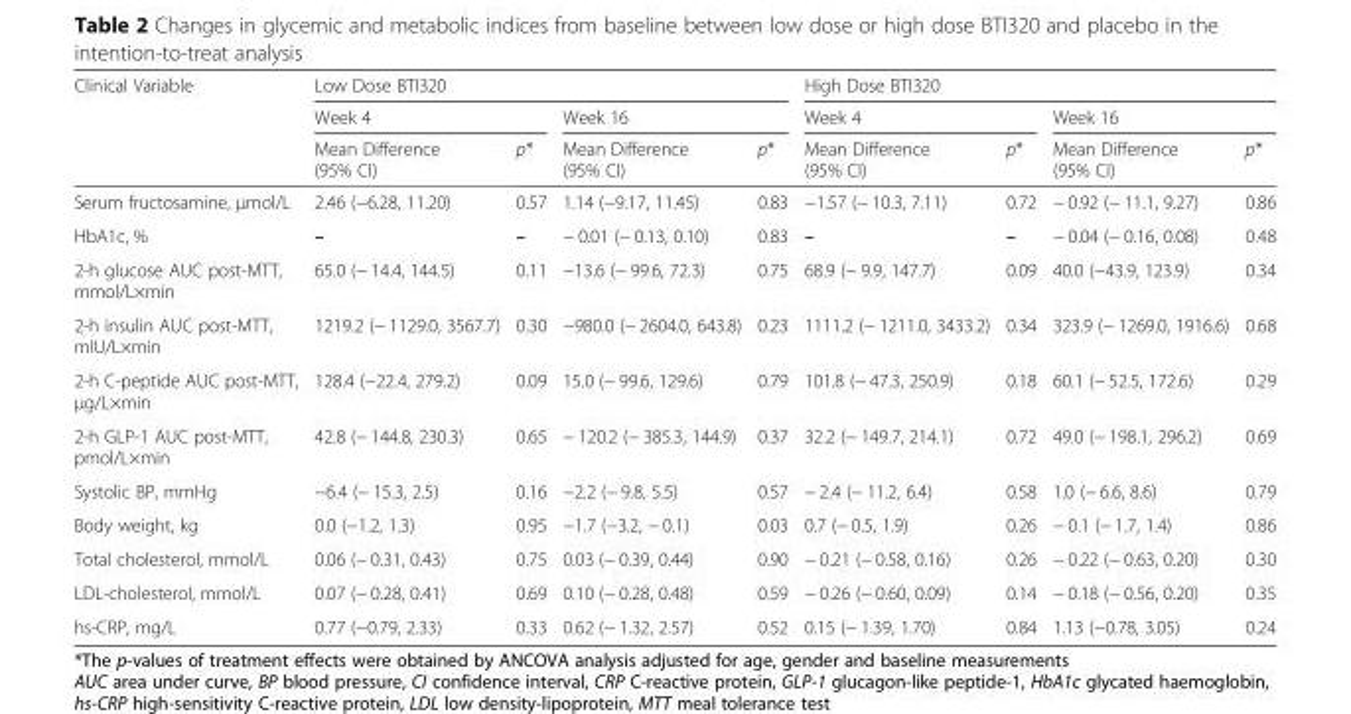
<table><thead><tr><td rowspan="3">Clinical Variable</td><td colspan="4">Low Dose BTI320</td><td colspan="4">High Dose BTI320</td></tr><tr><td colspan="2">Week 4</td><td colspan="2">Week 16</td><td colspan="2">Week 4</td><td colspan="2">Week 16</td></tr><tr><td>Mean Difference (95% CI)</td><td>p*</td><td>Mean Difference (95% CI)</td><td>p*</td><td>Mean Difference (95% CI)</td><td>p*</td><td>Mean Difference (95% CI)</td><td>p*</td></tr></thead><tbody><tr><td>Serum fructosamine, μmol/L</td><td>2.46 (−6.28, 11.20)</td><td>0.57</td><td>1.14 (−9.17, 11.45)</td><td>0.83</td><td>−1.57 (− 10.3, 7.11)</td><td>0.72</td><td>− 0.92 (− 11.1, 9.27)</td><td>0.86</td></tr><tr><td>HbA1c, %</td><td>–</td><td>–</td><td>− 0.01 (− 0.13, 0.10)</td><td>0.83</td><td>–</td><td>–</td><td>− 0.04 (− 0.16, 0.08)</td><td>0.48</td></tr><tr><td>2-h glucose AUC post-MTT, mmol/L×min</td><td>65.0 (− 14.4, 144.5)</td><td>0.11</td><td>−13.6 (− 99.6, 72.3)</td><td>0.75</td><td>68.9 (− 9.9, 147.7)</td><td>0.09</td><td>40.0 (−43.9, 123.9)</td><td>0.34</td></tr><tr><td>2-h insulin AUC post-MTT, mIU/L×min</td><td>1219.2 (− 1129.0, 3567.7)</td><td>0.30</td><td>−980.0 (− 2604.0, 643.8)</td><td>0.23</td><td>1111.2 (− 1211.0, 3433.2)</td><td>0.34</td><td>323.9 (− 1269.0, 1916.6)</td><td>0.68</td></tr><tr><td>2-h C-peptide AUC post-MTT, μg/L×min</td><td>128.4 (−22.4, 279.2)</td><td>0.09</td><td>15.0 (− 99.6, 129.6)</td><td>0.79</td><td>101.8 (− 47.3, 250.9)</td><td>0.18</td><td>60.1 (− 52.5, 172.6)</td><td>0.29</td></tr><tr><td>2-h GLP-1 AUC post-MTT, pmol/L×min</td><td>42.8 (− 144.8, 230.3)</td><td>0.65</td><td>− 120.2 (− 385.3, 144.9)</td><td>0.37</td><td>32.2 (− 149.7, 214.1)</td><td>0.72</td><td>49.0 (− 198.1, 296.2)</td><td>0.69</td></tr><tr><td>Systolic BP, mmHg</td><td>−6.4 (− 15.3, 2.5)</td><td>0.16</td><td>−2.2 (− 9.8, 5.5)</td><td>0.57</td><td>− 2.4 (− 11.2, 6.4)</td><td>0.58</td><td>1.0 (− 6.6, 8.6)</td><td>0.79</td></tr><tr><td>Body weight, kg</td><td>0.0 (−1.2, 1.3)</td><td>0.95</td><td>−1.7 (−3.2, − 0.1)</td><td>0.03</td><td>0.7 (− 0.5, 1.9)</td><td>0.26</td><td>− 0.1 (− 1.7, 1.4)</td><td>0.86</td></tr><tr><td>Total cholesterol, mmol/L</td><td>0.06 (− 0.31, 0.43)</td><td>0.75</td><td>0.03 (− 0.39, 0.44)</td><td>0.90</td><td>− 0.21 (− 0.58, 0.16)</td><td>0.26</td><td>− 0.22 (− 0.63, 0.20)</td><td>0.30</td></tr><tr><td>LDL-cholesterol, mmol/L</td><td>0.07 (− 0.28, 0.41)</td><td>0.69</td><td>0.10 (− 0.28, 0.48)</td><td>0.59</td><td>− 0.26 (− 0.60, 0.09)</td><td>0.14</td><td>− 0.18 (− 0.56, 0.20)</td><td>0.35</td></tr><tr><td>hs-CRP, mg/L</td><td>0.77 (−0.79, 2.33)</td><td>0.33</td><td>0.62 (− 1.32, 2.57)</td><td>0.52</td><td>0.15 (− 1.39, 1.70)</td><td>0.84</td><td>1.13 (−0.78, 3.05)</td><td>0.24</td></tr></tbody></table>